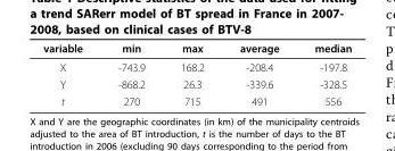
<table><thead><tr><td>variable</td><td>min</td><td>max</td><td>average</td><td>median</td></tr></thead><tbody><tr><td>X</td><td>-743.9</td><td>168.2</td><td>-208.4</td><td>-197.8</td></tr><tr><td>Y</td><td>-868.2</td><td>26.3</td><td>-339.6</td><td>-328.5</td></tr><tr><td>t</td><td>270</td><td>715</td><td>491</td><td>556</td></tr></tbody></table>